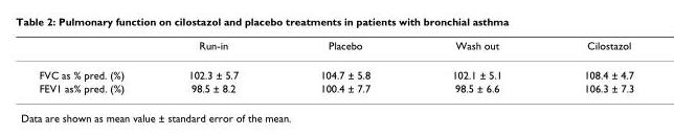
<table><thead><tr><td></td><td>Run-in</td><td>Placebo</td><td>Wash out</td><td>Cilostazol</td></tr></thead><tbody><tr><td>FVC as % pred. (%)</td><td>102.3 ± 5.7</td><td>104.7 ± 5.8</td><td>102.1 ± 5.1</td><td>108.4 ± 4.7</td></tr><tr><td>FEV1 as% pred. (%)</td><td>98.5 ± 8.2</td><td>100.4 ± 7.7</td><td>98.5 ± 6.6</td><td>106.3 ± 7.3</td></tr></tbody></table>